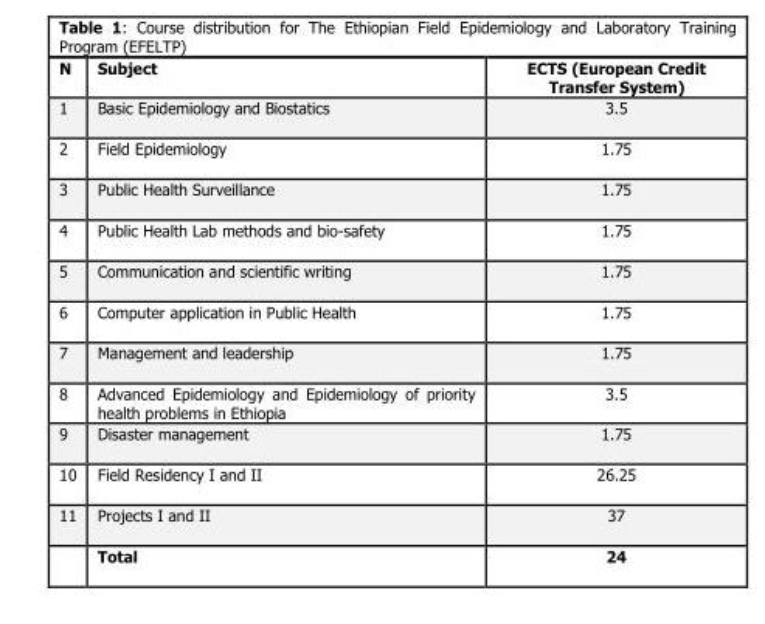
<table><thead><tr><td>N</td><td>Subject</td><td>ECTS (European Credit Transfer System)</td></tr></thead><tbody><tr><td>1</td><td>Basic Epidemiology and Biostatics</td><td>3.5</td></tr><tr><td>2</td><td>Field Epidemiology</td><td>1.75</td></tr><tr><td>3</td><td>Public Health Surveillance</td><td>1.75</td></tr><tr><td>4</td><td>Public Health Lab methods and bio-safety</td><td>1.75</td></tr><tr><td>5</td><td>Communication and scientific writing</td><td>1.75</td></tr><tr><td>6</td><td>Computer application in Public Health</td><td>1.75</td></tr><tr><td>7</td><td>Management and leadership</td><td>1.75</td></tr><tr><td>8</td><td>Advanced Epidemiology and Epidemiology of priority health problems in Ethiopia</td><td>3.5</td></tr><tr><td>9</td><td>Disaster management</td><td>1.75</td></tr><tr><td>10</td><td>Field Residency I and II</td><td>26.25</td></tr><tr><td rowspan="2">11</td><td>Projects I and II</td><td>37</td></tr><tr><td>Total</td><td>24</td></tr></tbody></table>